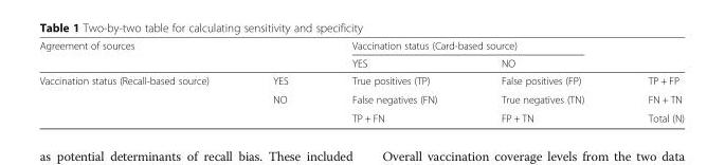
<table><thead><tr><td rowspan="2">Agreement of sources</td><td rowspan="2"></td><td colspan="2">Vaccination status (Card-based source)</td><td rowspan="2"></td></tr><tr><td>YES</td><td>NO</td></tr></thead><tbody><tr><td rowspan="3">Vaccination status (Recall-based source)</td><td>YES</td><td>True positives (TP)</td><td>False positives (FP)</td><td>TP + FP</td></tr><tr><td>NO</td><td>False negatives (FN)</td><td>True negatives (TN)</td><td>FN + TN</td></tr><tr><td></td><td>TP + FN</td><td>FP + TN</td><td>Total (N)</td></tr></tbody></table>